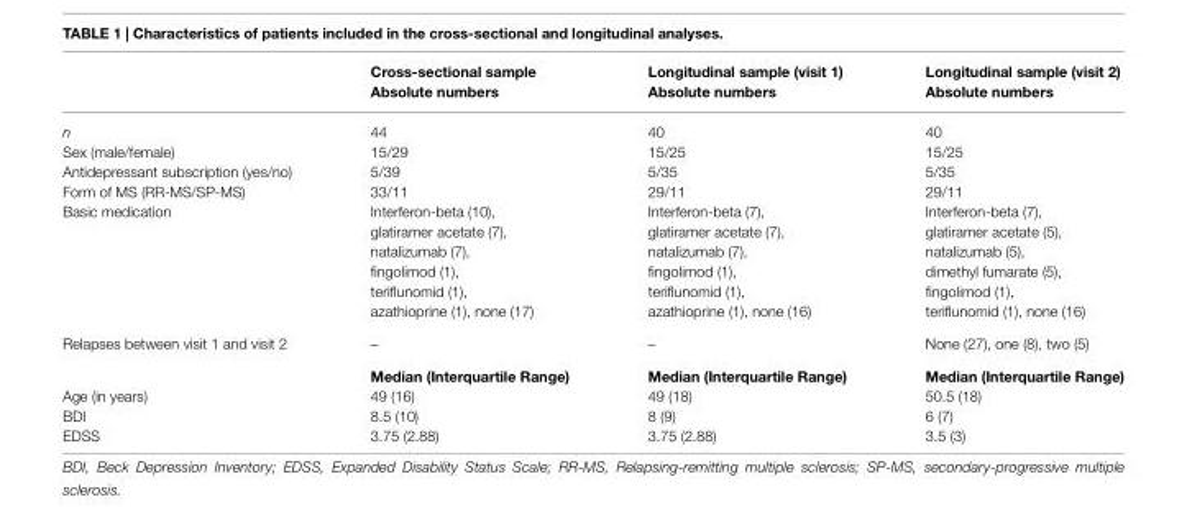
<table><thead><tr><td></td><td>Cross-sectional sample Absolute numbers</td><td>Longitudinal sample (visit 1) Absolute numbers</td><td>Longitudinal sample (visit 2) Absolute numbers</td></tr></thead><tbody><tr><td>n</td><td>44</td><td>40</td><td>40</td></tr><tr><td>Sex (male/female)</td><td>15/29</td><td>15/25</td><td>15/25</td></tr><tr><td>Antidepressant subscription (yes/no)</td><td>5/39</td><td>5/35</td><td>5/35</td></tr><tr><td>Form of MS (RR-MS/SP-MS)</td><td>33/11</td><td>29/11</td><td>29/11</td></tr><tr><td rowspan="6">Basic medication</td><td>Interferon-beta (10),</td><td>Interferon-beta (7),</td><td>Interferon-beta (7),</td></tr><tr><td>glatiramer acetate (7),</td><td>glatiramer acetate (7),</td><td>glatiramer acetate (5),</td></tr><tr><td>natalizumab (7),</td><td>natalizumab (7),</td><td>natalizumab (5),</td></tr><tr><td>fingolimod (1),</td><td>fingolimod (1),</td><td>dimethyl fumarate (5),</td></tr><tr><td>teriflunomid (1),</td><td>teriflunomid (1),</td><td>fingolimod (1),</td></tr><tr><td>azathioprine (1), none (17)</td><td>azathioprine (1), none (16)</td><td>teriflunomid (1), none (16)</td></tr><tr><td rowspan="2">Relapses between visit 1 and visit 2</td><td>–</td><td>–</td><td>None (27), one (8), two (5)</td></tr><tr><td>Median (Interquartile Range)</td><td>Median (Interquartile Range)</td><td>Median (Interquartile Range)</td></tr><tr><td>Age (in years)</td><td>49 (16)</td><td>49 (18)</td><td>50.5 (18)</td></tr><tr><td>BDI</td><td>8.5 (10)</td><td>8 (9)</td><td>6 (7)</td></tr><tr><td>EDSS</td><td>3.75 (2.88)</td><td>3.75 (2.88)</td><td>3.5 (3)</td></tr></tbody></table>